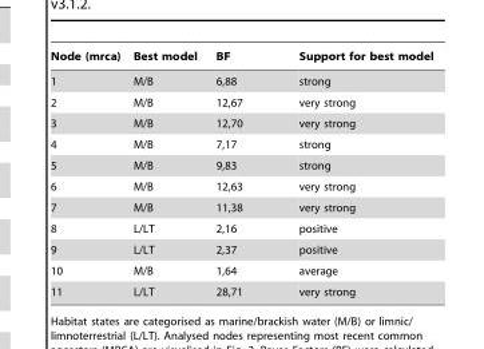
<table><thead><tr><td>Node (mrca)</td><td>Best model</td><td>BF</td><td>Support for best model</td></tr></thead><tbody><tr><td>1</td><td>M/B</td><td>6,88</td><td>strong</td></tr><tr><td>2</td><td>M/B</td><td>12,67</td><td>very strong</td></tr><tr><td>3</td><td>M/B</td><td>12,70</td><td>very strong</td></tr><tr><td>4</td><td>M/B</td><td>7,17</td><td>strong</td></tr><tr><td>5</td><td>M/B</td><td>9,83</td><td>strong</td></tr><tr><td>6</td><td>M/B</td><td>12,63</td><td>very strong</td></tr><tr><td>7</td><td>M/B</td><td>11,38</td><td>very strong</td></tr><tr><td>8</td><td>L/LT</td><td>2,16</td><td>positive</td></tr><tr><td>9</td><td>L/LT</td><td>2,37</td><td>positive</td></tr><tr><td>10</td><td>M/B</td><td>1,64</td><td>average</td></tr><tr><td>11</td><td>L/LT</td><td>28,71</td><td>very strong</td></tr></tbody></table>